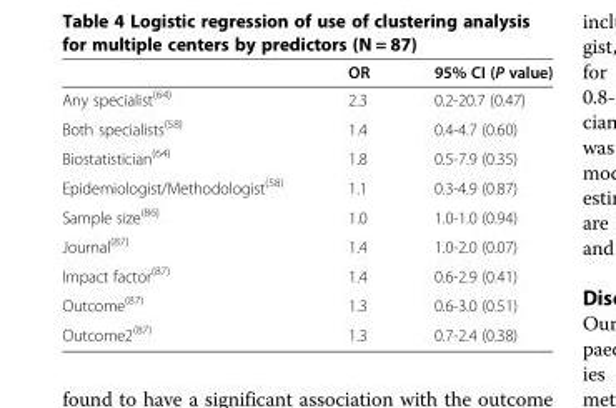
<table><thead><tr><td></td><td>OR</td><td>95% CI (P value)</td></tr></thead><tbody><tr><td>Any specialist<sup>(64)</sup></td><td>2.3</td><td>0.2-20.7 (0.47)</td></tr><tr><td>Both specialists<sup>(58)</sup></td><td>1.4</td><td>0.4-4.7 (0.60)</td></tr><tr><td>Biostatistician<sup>(64)</sup></td><td>1.8</td><td>0.5-7.9 (0.35)</td></tr><tr><td>Epidemiologist/Methodologist<sup>(58)</sup></td><td>1.1</td><td>0.3-4.9 (0.87)</td></tr><tr><td>Sample size<sup>(86)</sup></td><td>1.0</td><td>1.0-1.0 (0.94)</td></tr><tr><td>Journal<sup>(87)</sup></td><td>1.4</td><td>1.0-2.0 (0.07)</td></tr><tr><td>Impact factor<sup>(87)</sup></td><td>1.4</td><td>0.6-2.9 (0.41)</td></tr><tr><td>Outcome<sup>(87)</sup></td><td>1.3</td><td>0.6-3.0 (0.51)</td></tr><tr><td>Outcome2<sup>(87)</sup></td><td>1.3</td><td>0.7-2.4 (0.38)</td></tr></tbody></table>